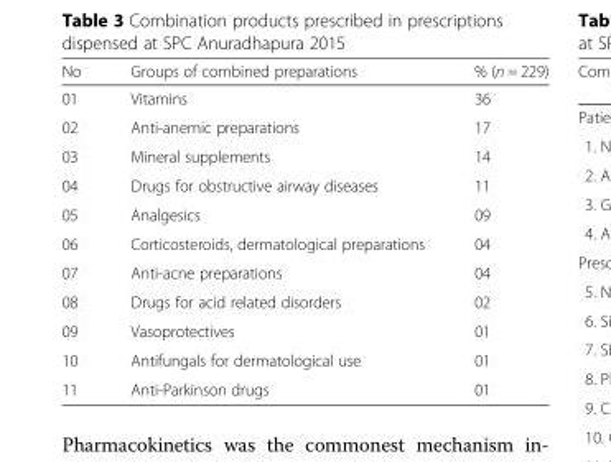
<table><thead><tr><td>No</td><td>Groups of combined preparations</td><td>% (n = 229)</td></tr></thead><tbody><tr><td>01</td><td>Vitamins</td><td>36</td></tr><tr><td>02</td><td>Anti-anemic preparations</td><td>17</td></tr><tr><td>03</td><td>Mineral supplements</td><td>14</td></tr><tr><td>04</td><td>Drugs for obstructive airway diseases</td><td>11</td></tr><tr><td>05</td><td>Analgesics</td><td>09</td></tr><tr><td>06</td><td>Corticosteroids, dermatological preparations</td><td>04</td></tr><tr><td>07</td><td>Anti-acne preparations</td><td>04</td></tr><tr><td>08</td><td>Drugs for acid related disorders</td><td>02</td></tr><tr><td>09</td><td>Vasoprotectives</td><td>01</td></tr><tr><td>10</td><td>Antifungals for dermatological use</td><td>01</td></tr><tr><td>11</td><td>Anti-Parkinson drugs</td><td>01</td></tr></tbody></table>